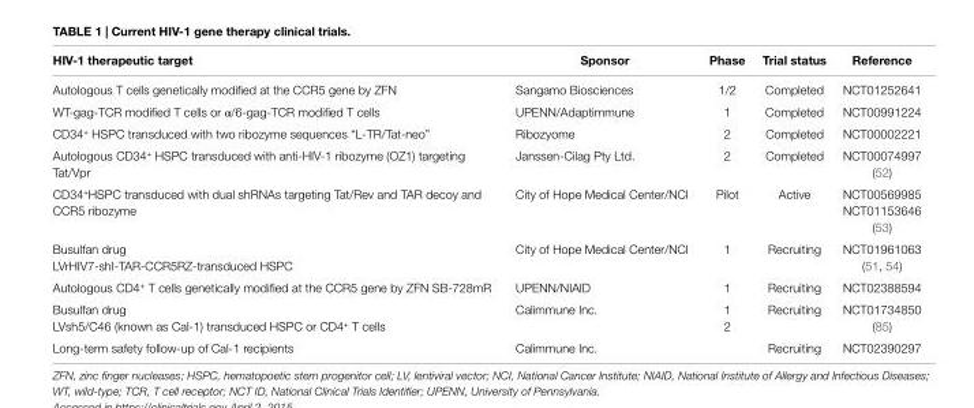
<table><thead><tr><td>Hiv-1 therapeutic target</td><td>Sponsor</td><td>Phase</td><td>Trial status</td><td>Reference</td></tr></thead><tbody><tr><td>Autologous T cells genetically modified at the CCR5 gene by ZFN</td><td>Sangamo Biosciences</td><td>1/2</td><td>Completed</td><td>NCT01252641</td></tr><tr><td>WT-gag-TCR modified T cells or α/6-gag-TCR modified T cells</td><td>UPENN/Adaptimmune</td><td>1</td><td>Completed</td><td>NCT00991224</td></tr><tr><td>CD34<sup>+</sup> HSPC transduced with two ribozyme sequences “L-TR/Tat-neo”</td><td>Ribozyome</td><td>2</td><td>Completed</td><td>NCT00002221</td></tr><tr><td>Autologous CD34<sup>+</sup> HSPC transduced with anti-HIV-1 ribozyme (OZ1) targeting Tat/Vpr</td><td>Janssen-Cilag Pty Ltd.</td><td>2</td><td>Completed</td><td>NCT00074997 (52)</td></tr><tr><td>CD34<sup>+</sup>HSPC transduced with dual shRNAs targeting Tat/Rev and TAR decoy and CCR5 ribozyme</td><td>City of Hope Medical Center/NCI</td><td>Pilot</td><td>Active</td><td>NCT00569985 NCT01153646 (53)</td></tr><tr><td>Busulfan drug LVrHIV7-shI-TAR-CCR5RZ-transduced HSPC</td><td>City of Hope Medical Center/NCI</td><td>1</td><td>Recruiting</td><td>NCT01961063 (51, 54)</td></tr><tr><td>Autologous CD4<sup>+</sup> T cells genetically modified at the CCR5 gene by ZFN SB-728mR</td><td>UPENN/NIAID</td><td>1</td><td>Recruiting</td><td>NCT02388594</td></tr><tr><td>Busulfan drug LVsh5/C46 (known as Cal-1) transduced HSPC or CD4<sup>+</sup> T cells</td><td>Calimmune Inc.</td><td>1 2</td><td>Recruiting</td><td>NCT01734850 (85)</td></tr><tr><td>Long-term safety follow-up of Cal-1 recipients</td><td>Calimmune Inc.</td><td></td><td>Recruiting</td><td>NCT02390297</td></tr></tbody></table>